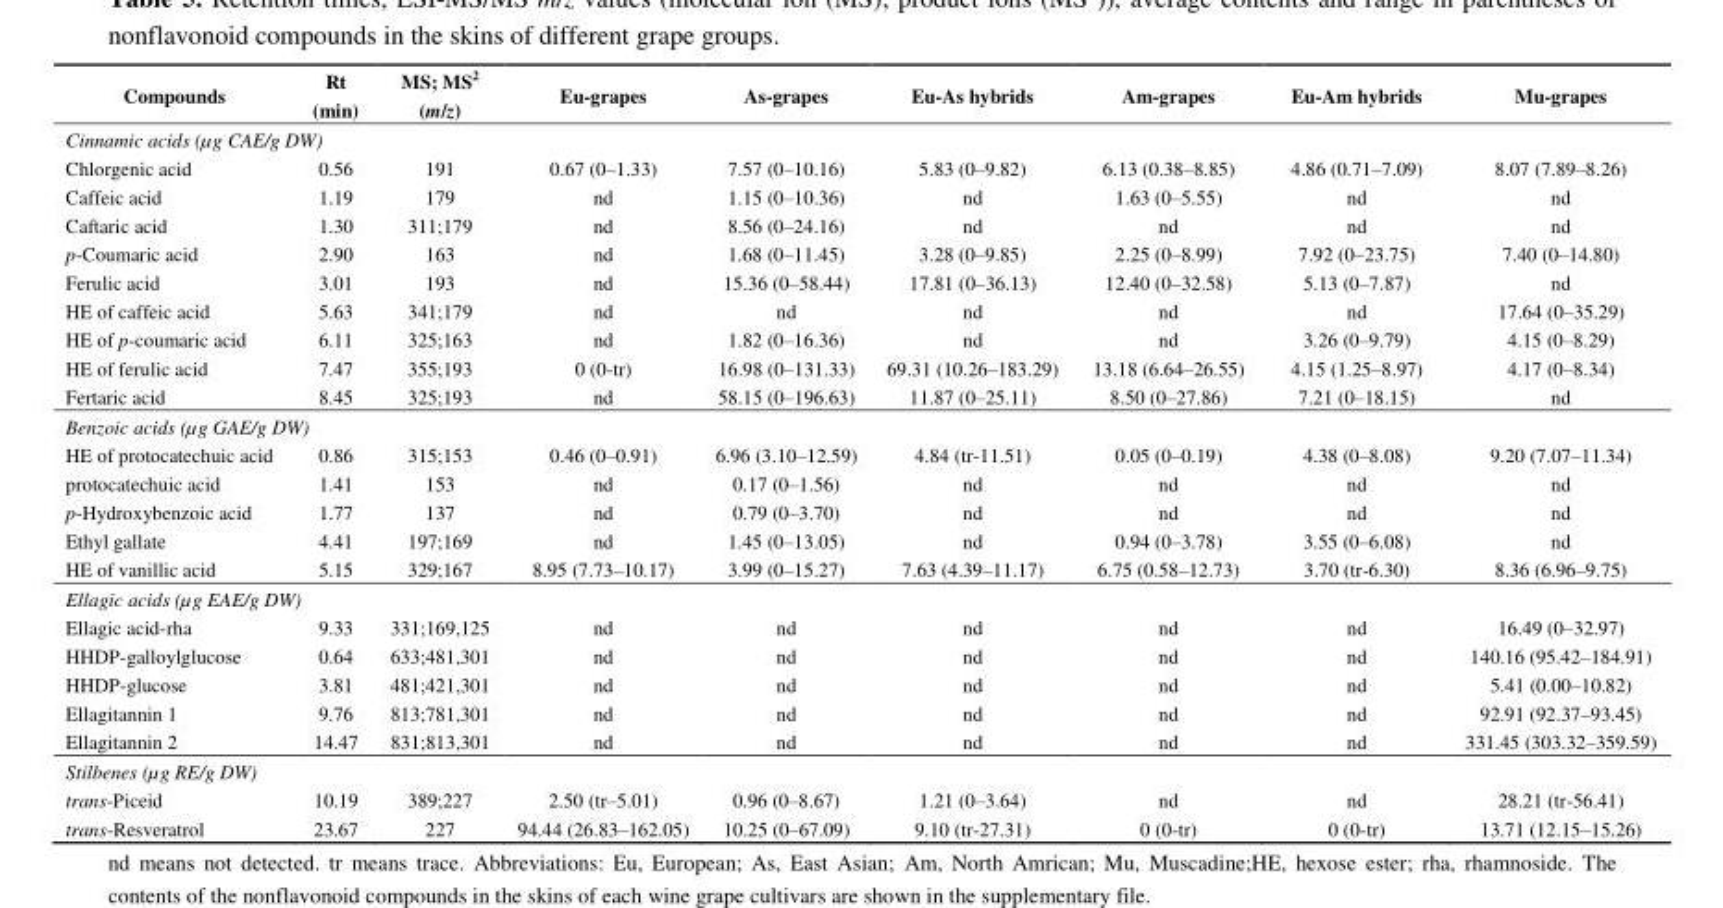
<table><thead><tr><td>Compounds</td><td>Rt (min)</td><td>MS; MS<sup>2</sup> (m/z)</td><td>Eu-grapes</td><td>As-grapes</td><td>Eu-As hybrids</td><td>Am-grapes</td><td>Eu-Am hybrids</td><td>Mu-grapes</td></tr></thead><tbody><tr><td colspan="9">Cinnamic acids (µg CAE/g DW)</td></tr><tr><td>Chlorgenic acid</td><td>0.56</td><td>191</td><td>0.67 (0–1.33)</td><td>7.57 (0–10.16)</td><td>5.83 (0–9.82)</td><td>6.13 (0.38–8.85)</td><td>4.86 (0.71–7.09)</td><td>8.07 (7.89–8.26)</td></tr><tr><td>Caffeic acid</td><td>1.19</td><td>179</td><td>nd</td><td>1.15 (0–10.36)</td><td>nd</td><td>1.63 (0–5.55)</td><td>nd</td><td>nd</td></tr><tr><td>Caftaric acid</td><td>1.30</td><td>311;179</td><td>nd</td><td>8.56 (0–24.16)</td><td>nd</td><td>nd</td><td>nd</td><td>nd</td></tr><tr><td>p-Coumaric acid</td><td>2.90</td><td>163</td><td>nd</td><td>1.68 (0–11.45)</td><td>3.28 (0–9.85)</td><td>2.25 (0–8.99)</td><td>7.92 (0–23.75)</td><td>7.40 (0–14.80)</td></tr><tr><td>Ferulic acid</td><td>3.01</td><td>193</td><td>nd</td><td>15.36 (0–58.44)</td><td>17.81 (0–36.13)</td><td>12.40 (0–32.58)</td><td>5.13 (0–7.87)</td><td>nd</td></tr><tr><td>HE of caffeic acid</td><td>5.63</td><td>341;179</td><td>nd</td><td>nd</td><td>nd</td><td>nd</td><td>nd</td><td>17.64 (0–35.29)</td></tr><tr><td>HE of p-coumaric acid</td><td>6.11</td><td>325;163</td><td>nd</td><td>1.82 (0–16.36)</td><td>nd</td><td>nd</td><td>3.26 (0–9.79)</td><td>4.15 (0–8.29)</td></tr><tr><td>HE of ferulic acid</td><td>7.47</td><td>355;193</td><td>0 (0-tr)</td><td>16.98 (0–131.33)</td><td>69.31 (10.26–183.29)</td><td>13.18 (6.64–26.55)</td><td>4.15 (1.25–8.97)</td><td>4.17 (0–8.34)</td></tr><tr><td>Fertaric acid</td><td>8.45</td><td>325;193</td><td>nd</td><td>58.15 (0–196.63)</td><td>11.87 (0–25.11)</td><td>8.50 (0–27.86)</td><td>7.21 (0–18.15)</td><td>nd</td></tr><tr><td colspan="9">Benzoic acids (µg GAE/g DW)</td></tr><tr><td>HE of protocatechuic acid</td><td>0.86</td><td>315;153</td><td>0.46 (0–0.91)</td><td>6.96 (3.10–12.59)</td><td>4.84 (tr-11.51)</td><td>0.05 (0–0.19)</td><td>4.38 (0–8.08)</td><td>9.20 (7.07–11.34)</td></tr><tr><td>protocatechuic acid</td><td>1.41</td><td>153</td><td>nd</td><td>0.17 (0–1.56)</td><td>nd</td><td>nd</td><td>nd</td><td>nd</td></tr><tr><td>p-Hydroxybenzoic acid</td><td>1.77</td><td>137</td><td>nd</td><td>0.79 (0–3.70)</td><td>nd</td><td>nd</td><td>nd</td><td>nd</td></tr><tr><td>Ethyl gallate</td><td>4.41</td><td>197;169</td><td>nd</td><td>1.45 (0–13.05)</td><td>nd</td><td>0.94 (0–3.78)</td><td>3.55 (0–6.08)</td><td>nd</td></tr><tr><td>HE of vanillic acid</td><td>5.15</td><td>329;167</td><td>8.95 (7.73–10.17)</td><td>3.99 (0–15.27)</td><td>7.63 (4.39–11.17)</td><td>6.75 (0.58–12.73)</td><td>3.70 (tr-6.30)</td><td>8.36 (6.96–9.75)</td></tr><tr><td colspan="9">Ellagic acids (µg EAE/g DW)</td></tr><tr><td>Ellagic acid-rha</td><td>9.33</td><td>331;169,125</td><td>nd</td><td>nd</td><td>nd</td><td>nd</td><td>nd</td><td>16.49 (0–32.97)</td></tr><tr><td>HHDP-galloylglucose</td><td>0.64</td><td>633;481,301</td><td>nd</td><td>nd</td><td>nd</td><td>nd</td><td>nd</td><td>140.16 (95.42–184.91)</td></tr><tr><td>HHDP-glucose</td><td>3.81</td><td>481;421,301</td><td>nd</td><td>nd</td><td>nd</td><td>nd</td><td>nd</td><td>5.41 (0.00–10.82)</td></tr><tr><td>Ellagitannin 1</td><td>9.76</td><td>813;781,301</td><td>nd</td><td>nd</td><td>nd</td><td>nd</td><td>nd</td><td>92.91 (92.37–93.45)</td></tr><tr><td>Ellagitannin 2</td><td>14.47</td><td>831;813,301</td><td>nd</td><td>nd</td><td>nd</td><td>nd</td><td>nd</td><td>331.45 (303.32–359.59)</td></tr><tr><td colspan="9">Stilbenes (µg RE/g DW)</td></tr><tr><td>trans-Piceid</td><td>10.19</td><td>389;227</td><td>2.50 (tr–5.01)</td><td>0.96 (0–8.67)</td><td>1.21 (0–3.64)</td><td>nd</td><td>nd</td><td>28.21 (tr-56.41)</td></tr><tr><td>trans-Resveratrol</td><td>23.67</td><td>227</td><td>94.44 (26.83–162.05)</td><td>10.25 (0–67.09)</td><td>9.10 (tr-27.31)</td><td>0 (0-tr)</td><td>0 (0-tr)</td><td>13.71 (12.15–15.26)</td></tr></tbody></table>